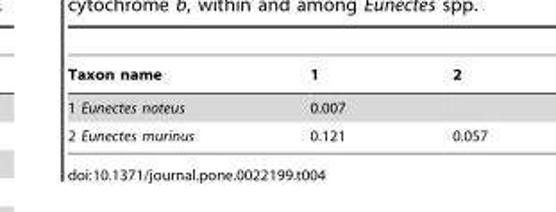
<table><thead><tr><td>Taxon name</td><td>1</td><td>2</td></tr></thead><tbody><tr><td>1 Eunectes noteus</td><td>0.007</td><td></td></tr><tr><td>2 Eunectes murinus</td><td>0.121</td><td>0.057</td></tr></tbody></table>